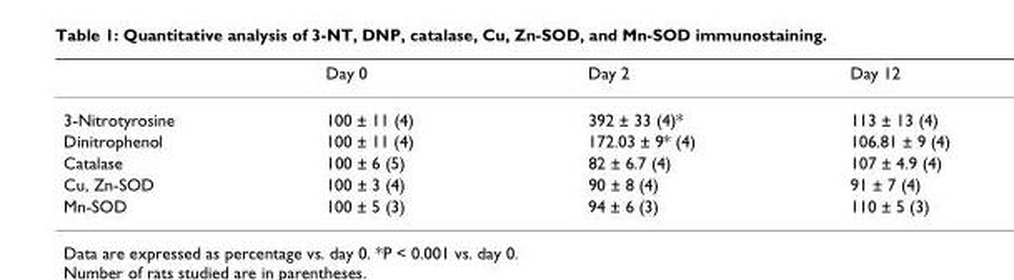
<table><thead><tr><td></td><td>Day 0</td><td>Day 2</td><td>Day 12</td></tr></thead><tbody><tr><td>3-Nitrotyrosine</td><td>100 ± 11 (4)</td><td>392 ± 33 (4)*</td><td>113 ± 13 (4)</td></tr><tr><td>Dinitrophenol</td><td>100 ± 11 (4)</td><td>172.03 ± 9* (4)</td><td>106.81 ± 9 (4)</td></tr><tr><td>Catalase</td><td>100 ± 6 (5)</td><td>82 ± 6.7 (4)</td><td>107 ± 4.9 (4)</td></tr><tr><td>Cu, Zn-SOD</td><td>100 ± 3 (4)</td><td>90 ± 8 (4)</td><td>91 ± 7 (4)</td></tr><tr><td>Mn-SOD</td><td>100 ± 5 (3)</td><td>94 ± 6 (3)</td><td>110 ± 5 (3)</td></tr></tbody></table>